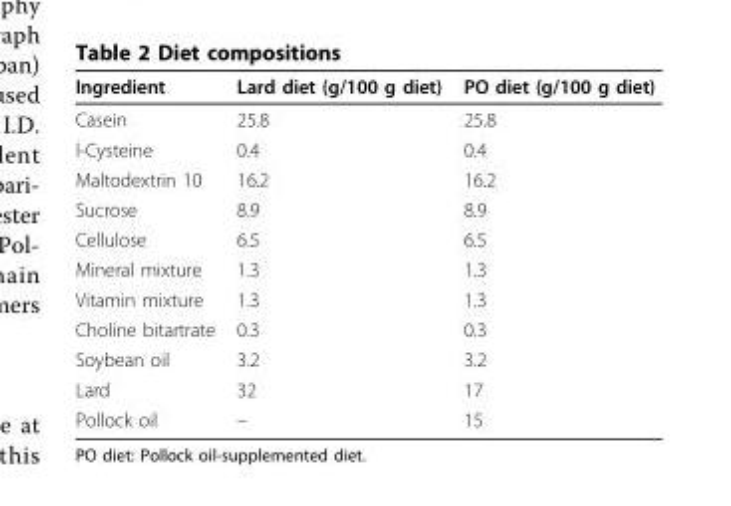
<table><tbody><tr><td>Ingredient</td><td>Lard diet (g/100 g diet)</td><td>PO diet (g/100 g diet)</td></tr><tr><td>Casein</td><td>25.8</td><td>25.8</td></tr><tr><td>l-Cysteine</td><td>0.4</td><td>0.4</td></tr><tr><td>Maltodextrin 10</td><td>16.2</td><td>16.2</td></tr><tr><td>Sucrose</td><td>8.9</td><td>8.9</td></tr><tr><td>Cellulose</td><td>6.5</td><td>6.5</td></tr><tr><td>Mineral mixture</td><td>1.3</td><td>1.3</td></tr><tr><td>Vitamin mixture</td><td>1.3</td><td>1.3</td></tr><tr><td>Choline bitartrate</td><td>0.3</td><td>0.3</td></tr><tr><td>Soybean oil</td><td>3.2</td><td>3.2</td></tr><tr><td>Lard</td><td>32</td><td>17</td></tr><tr><td>Pollock oil</td><td>–</td><td>15</td></tr></tbody></table>